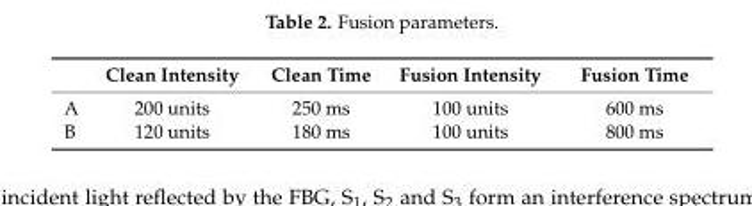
<table><thead><tr><td></td><td>Clean Intensity</td><td>Clean Time</td><td>Fusion Intensity</td><td>Fusion Time</td></tr></thead><tbody><tr><td>A</td><td>200 units</td><td>250 ms</td><td>100 units</td><td>600 ms</td></tr><tr><td>B</td><td>120 units</td><td>180 ms</td><td>100 units</td><td>800 ms</td></tr></tbody></table>